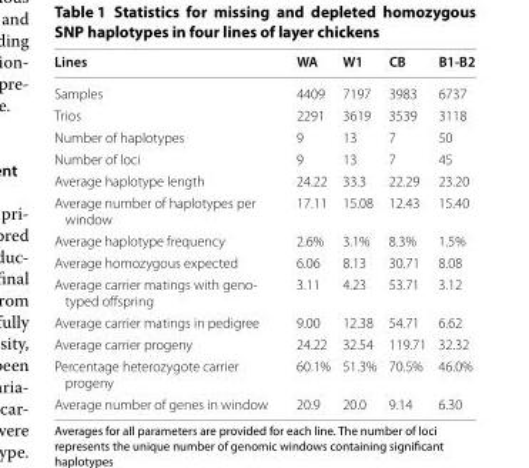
<table><thead><tr><td>Lines</td><td>WA</td><td>W1</td><td>CB</td><td>B1‑B2</td></tr></thead><tbody><tr><td>Samples</td><td>4409</td><td>7197</td><td>3983</td><td>6737</td></tr><tr><td>Trios</td><td>2291</td><td>3619</td><td>3539</td><td>3118</td></tr><tr><td>Number of haplotypes</td><td>9</td><td>13</td><td>7</td><td>50</td></tr><tr><td>Number of loci</td><td>9</td><td>13</td><td>7</td><td>45</td></tr><tr><td>Average haplotype length</td><td>24.22</td><td>33.3</td><td>22.29</td><td>23.20</td></tr><tr><td>Average number of haplotypes per window</td><td>17.11</td><td>15.08</td><td>12.43</td><td>15.40</td></tr><tr><td>Average haplotype frequency</td><td>2.6%</td><td>3.1%</td><td>8.3%</td><td>1.5%</td></tr><tr><td>Average homozygous expected</td><td>6.06</td><td>8.13</td><td>30.71</td><td>8.08</td></tr><tr><td>Average carrier matings with geno‑ typed offspring</td><td>3.11</td><td>4.23</td><td>53.71</td><td>3.12</td></tr><tr><td>Average carrier matings in pedigree</td><td>9.00</td><td>12.38</td><td>54.71</td><td>6.62</td></tr><tr><td>Average carrier progeny</td><td>24.22</td><td>32.54</td><td>119.71</td><td>32.32</td></tr><tr><td>Percentage heterozygote carrier progeny</td><td>60.1%</td><td>51.3%</td><td>70.5%</td><td>46.0%</td></tr><tr><td>Average number of genes in window</td><td>20.9</td><td>20.0</td><td>9.14</td><td>6.30</td></tr></tbody></table>